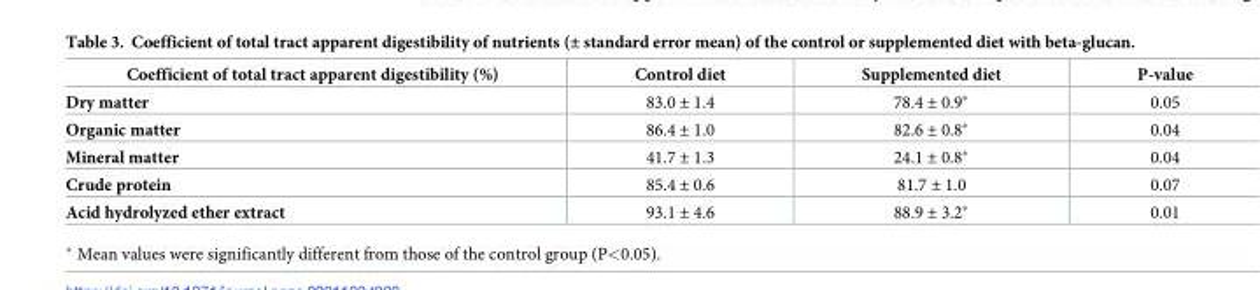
<table><thead><tr><td>Coefficient of total tract apparent digestibility (%)</td><td>Control diet</td><td>Supplemented diet</td><td>P-value</td></tr></thead><tbody><tr><td>Dry matter</td><td>83.0 ± 1.4</td><td>78.4 ± 0.9*</td><td>0.05</td></tr><tr><td>Organic matter</td><td>86.4 ± 1.0</td><td>82.6 ± 0.8*</td><td>0.04</td></tr><tr><td>Mineral matter</td><td>41.7 ± 1.3</td><td>24.1 ± 0.8*</td><td>0.04</td></tr><tr><td>Crude protein</td><td>85.4 ± 0.6</td><td>81.7 ± 1.0</td><td>0.07</td></tr><tr><td>Acid hydrolyzed ether extract</td><td>93.1 ± 4.6</td><td>88.9 ± 3.2*</td><td>0.01</td></tr></tbody></table>